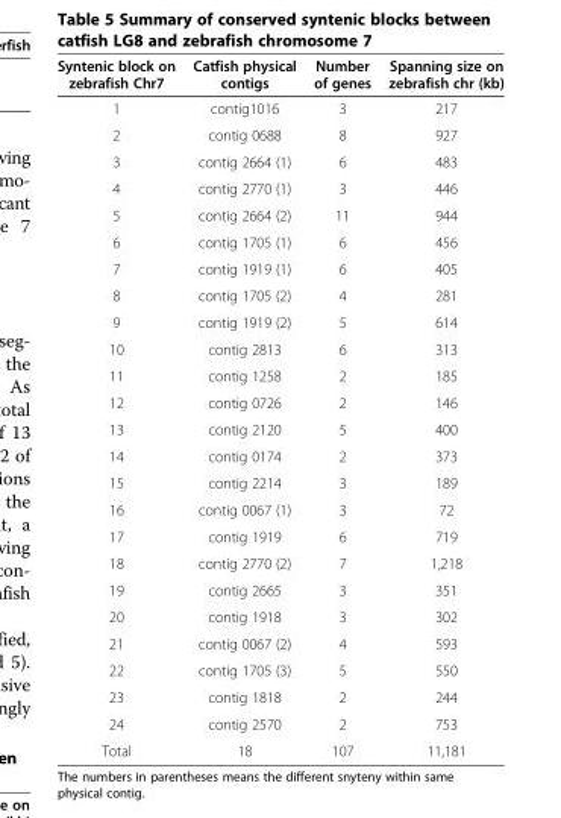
<table><thead><tr><td>Syntenic block on zebrafish Chr7</td><td>Catfish physical contigs</td><td>Number of genes</td><td>Spanning size on zebrafish chr (kb)</td></tr></thead><tbody><tr><td>1</td><td>contig1016</td><td>3</td><td>217</td></tr><tr><td>2</td><td>contig 0688</td><td>8</td><td>927</td></tr><tr><td>3</td><td>contig 2664 (1)</td><td>6</td><td>483</td></tr><tr><td>4</td><td>contig 2770 (1)</td><td>3</td><td>446</td></tr><tr><td>5</td><td>contig 2664 (2)</td><td>11</td><td>944</td></tr><tr><td>6</td><td>contig 1705 (1)</td><td>6</td><td>456</td></tr><tr><td>7</td><td>contig 1919 (1)</td><td>6</td><td>405</td></tr><tr><td>8</td><td>contig 1705 (2)</td><td>4</td><td>281</td></tr><tr><td>9</td><td>contig 1919 (2)</td><td>5</td><td>614</td></tr><tr><td>10</td><td>contig 2813</td><td>6</td><td>313</td></tr><tr><td>11</td><td>contig 1258</td><td>2</td><td>185</td></tr><tr><td>12</td><td>contig 0726</td><td>2</td><td>146</td></tr><tr><td>13</td><td>contig 2120</td><td>5</td><td>400</td></tr><tr><td>14</td><td>contig 0174</td><td>2</td><td>373</td></tr><tr><td>15</td><td>contig 2214</td><td>3</td><td>189</td></tr><tr><td>16</td><td>contig 0067 (1)</td><td>3</td><td>72</td></tr><tr><td>17</td><td>contig 1919</td><td>6</td><td>719</td></tr><tr><td>18</td><td>contig 2770 (2)</td><td>7</td><td>1,218</td></tr><tr><td>19</td><td>contig 2665</td><td>3</td><td>351</td></tr><tr><td>20</td><td>contig 1918</td><td>3</td><td>302</td></tr><tr><td>21</td><td>contig 0067 (2)</td><td>4</td><td>593</td></tr><tr><td>22</td><td>contig 1705 (3)</td><td>5</td><td>550</td></tr><tr><td>23</td><td>contig 1818</td><td>2</td><td>244</td></tr><tr><td>24</td><td>contig 2570</td><td>2</td><td>753</td></tr><tr><td>Total</td><td>18</td><td>107</td><td>11,181</td></tr></tbody></table>